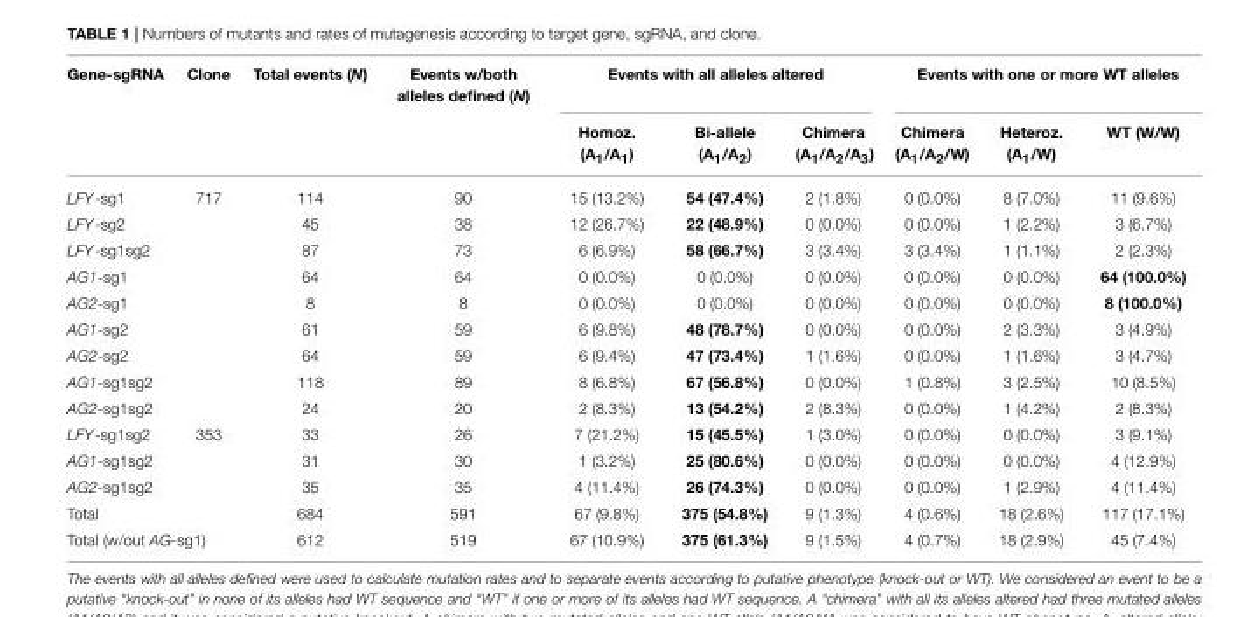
<table><thead><tr><td rowspan="2">Gene-sgRNA</td><td rowspan="2">Clone</td><td rowspan="2">Total events (N)</td><td rowspan="2">Events w/both alleles defined (N)</td><td colspan="3">Events with all alleles altered</td><td colspan="3">Events with one or more WT alleles</td></tr><tr><td>Homoz. (A<sub>1</sub>/A<sub>1</sub>)</td><td>Bi-allele (A<sub>1</sub>/A<sub>2</sub>)</td><td>Chimera (A<sub>1</sub>/A<sub>2</sub>/A<sub>3</sub>)</td><td>Chimera (A<sub>1</sub>/A<sub>2</sub>/W)</td><td>Heteroz. (A<sub>1</sub>/W)</td><td>WT (W/W)</td></tr></thead><tbody><tr><td>LFY-sg1</td><td>717</td><td>114</td><td>90</td><td>15 (13.2%)</td><td>54 (47.4%)</td><td>2 (1.8%)</td><td>0 (0.0%)</td><td>8 (7.0%)</td><td>11 (9.6%)</td></tr><tr><td>LFY-sg2</td><td></td><td>45</td><td>38</td><td>12 (26.7%)</td><td>22 (48.9%)</td><td>0 (0.0%)</td><td>0 (0.0%)</td><td>1 (2.2%)</td><td>3 (6.7%)</td></tr><tr><td>LFY-sg1sg2</td><td></td><td>87</td><td>73</td><td>6 (6.9%)</td><td>58 (66.7%)</td><td>3 (3.4%)</td><td>3 (3.4%)</td><td>1 (1.1%)</td><td>2 (2.3%)</td></tr><tr><td>AG1-sg1</td><td></td><td>64</td><td>64</td><td>0 (0.0%)</td><td>0 (0.0%)</td><td>0 (0.0%)</td><td>0 (0.0%)</td><td>0 (0.0%)</td><td>64 (100.0%)</td></tr><tr><td>AG2-sg1</td><td></td><td>8</td><td>8</td><td>0 (0.0%)</td><td>0 (0.0%)</td><td>0 (0.0%)</td><td>0 (0.0%)</td><td>0 (0.0%)</td><td>8 (100.0%)</td></tr><tr><td>AG1-sg2</td><td></td><td>61</td><td>59</td><td>6 (9.8%)</td><td>48 (78.7%)</td><td>0 (0.0%)</td><td>0 (0.0%)</td><td>2 (3.3%)</td><td>3 (4.9%)</td></tr><tr><td>AG2-sg2</td><td></td><td>64</td><td>59</td><td>6 (9.4%)</td><td>47 (73.4%)</td><td>1 (1.6%)</td><td>0 (0.0%)</td><td>1 (1.6%)</td><td>3 (4.7%)</td></tr><tr><td>AG1-sg1sg2</td><td></td><td>118</td><td>89</td><td>8 (6.8%)</td><td>67 (56.8%)</td><td>0 (0.0%)</td><td>1 (0.8%)</td><td>3 (2.5%)</td><td>10 (8.5%)</td></tr><tr><td>AG2-sg1sg2</td><td></td><td>24</td><td>20</td><td>2 (8.3%)</td><td>13 (54.2%)</td><td>2 (8.3%)</td><td>0 (0.0%)</td><td>1 (4.2%)</td><td>2 (8.3%)</td></tr><tr><td>LFY-sg1sg2</td><td>353</td><td>33</td><td>26</td><td>7 (21.2%)</td><td>15 (45.5%)</td><td>1 (3.0%)</td><td>0 (0.0%)</td><td>0 (0.0%)</td><td>3 (9.1%)</td></tr><tr><td>AG1-sg1sg2</td><td></td><td>31</td><td>30</td><td>1 (3.2%)</td><td>25 (80.6%)</td><td>0 (0.0%)</td><td>0 (0.0%)</td><td>0 (0.0%)</td><td>4 (12.9%)</td></tr><tr><td>AG2-sg1sg2</td><td></td><td>35</td><td>35</td><td>4 (11.4%)</td><td>26 (74.3%)</td><td>0 (0.0%)</td><td>0 (0.0%)</td><td>1 (2.9%)</td><td>4 (11.4%)</td></tr><tr><td colspan="2">Total</td><td>684</td><td>591</td><td>67 (9.8%)</td><td>375 (54.8%)</td><td>9 (1.3%)</td><td>4 (0.6%)</td><td>18 (2.6%)</td><td>117 (17.1%)</td></tr><tr><td colspan="2">Total (w/out AG-sg1)</td><td>612</td><td>519</td><td>67 (10.9%)</td><td>375 (61.3%)</td><td>9 (1.5%)</td><td>4 (0.7%)</td><td>18 (2.9%)</td><td>45 (7.4%)</td></tr></tbody></table>